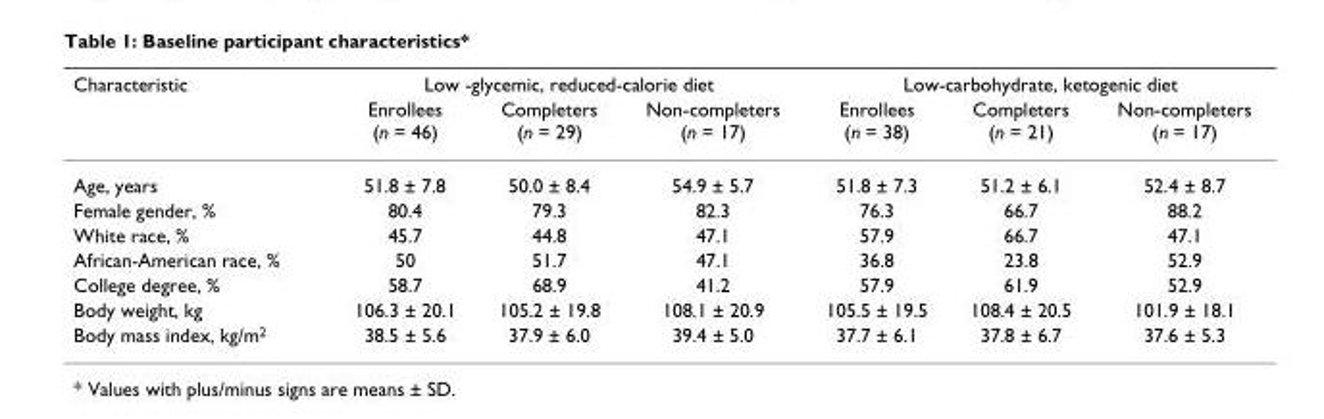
<table><thead><tr><td rowspan="2">Characteristic</td><td colspan="3">Low -glycemic, reduced-calorie diet</td><td colspan="3">Low-carbohydrate, ketogenic diet</td></tr><tr><td>Enrollees (n = 46)</td><td>Completers (n = 29)</td><td>Non-completers (n = 17)</td><td>Enrollees (n = 38)</td><td>Completers (n = 21)</td><td>Non-completers (n = 17)</td></tr></thead><tbody><tr><td>Age, years</td><td>51.8 ± 7.8</td><td>50.0 ± 8.4</td><td>54.9 ± 5.7</td><td>51.8 ± 7.3</td><td>51.2 ± 6.1</td><td>52.4 ± 8.7</td></tr><tr><td>Female gender, %</td><td>80.4</td><td>79.3</td><td>82.3</td><td>76.3</td><td>66.7</td><td>88.2</td></tr><tr><td>White race, %</td><td>45.7</td><td>44.8</td><td>47.1</td><td>57.9</td><td>66.7</td><td>47.1</td></tr><tr><td>African-American race, %</td><td>50</td><td>51.7</td><td>47.1</td><td>36.8</td><td>23.8</td><td>52.9</td></tr><tr><td>College degree, %</td><td>58.7</td><td>68.9</td><td>41.2</td><td>57.9</td><td>61.9</td><td>52.9</td></tr><tr><td>Body weight, kg</td><td>106.3 ± 20.1</td><td>105.2 ± 19.8</td><td>108.1 ± 20.9</td><td>105.5 ± 19.5</td><td>108.4 ± 20.5</td><td>101.9 ± 18.1</td></tr><tr><td>Body mass index, kg/m<sup>2</sup></td><td>38.5 ± 5.6</td><td>37.9 ± 6.0</td><td>39.4 ± 5.0</td><td>37.7 ± 6.1</td><td>37.8 ± 6.7</td><td>37.6 ± 5.3</td></tr></tbody></table>